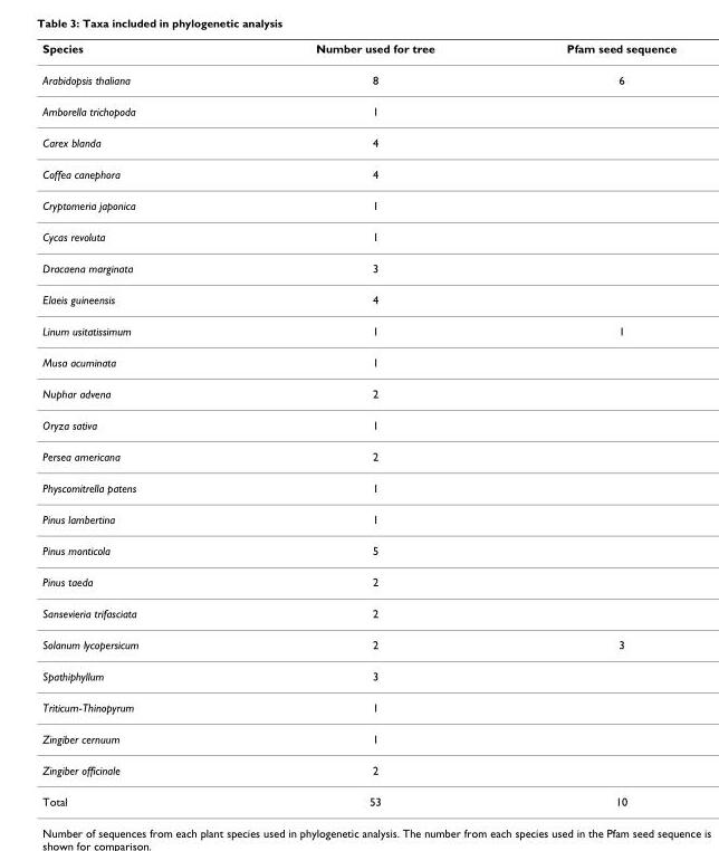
<table><thead><tr><td>Species</td><td>Number used for tree</td><td>Pfam seed sequence</td></tr></thead><tbody><tr><td>Arabidopsis thaliana</td><td>8</td><td>6</td></tr><tr><td>Amborella trichopoda</td><td>1</td><td></td></tr><tr><td>Carex blanda</td><td>4</td><td></td></tr><tr><td>Coffea canephora</td><td>4</td><td></td></tr><tr><td>Cryptomeria japonica</td><td>1</td><td></td></tr><tr><td>Cycas revoluta</td><td>1</td><td></td></tr><tr><td>Dracaena marginata</td><td>3</td><td></td></tr><tr><td>Elaeis guineensis</td><td>4</td><td></td></tr><tr><td>Linum usitatissimum</td><td>1</td><td>1</td></tr><tr><td>Musa acuminata</td><td>1</td><td></td></tr><tr><td>Nuphar advena</td><td>2</td><td></td></tr><tr><td>Oryza sativa</td><td>1</td><td></td></tr><tr><td>Persea americana</td><td>2</td><td></td></tr><tr><td>Physcomitrella patens</td><td>1</td><td></td></tr><tr><td>Pinus lambertina</td><td>1</td><td></td></tr><tr><td>Pinus monticola</td><td>5</td><td></td></tr><tr><td>Pinus taeda</td><td>2</td><td></td></tr><tr><td>Sansevieria trifasciata</td><td>2</td><td></td></tr><tr><td>Solanum lycopersicum</td><td>2</td><td>3</td></tr><tr><td>Spathiphyllum</td><td>3</td><td></td></tr><tr><td>Triticum-Thinopyrum</td><td>1</td><td></td></tr><tr><td>Zingiber cernuum</td><td>1</td><td></td></tr><tr><td>Zingiber officinale</td><td>2</td><td></td></tr><tr><td>Total</td><td>53</td><td>10</td></tr></tbody></table>